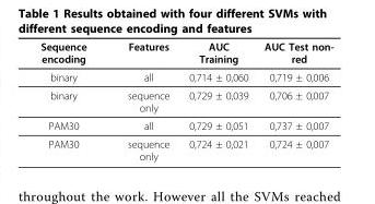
<table><thead><tr><td>Sequence encoding</td><td>Features</td><td>AUC Training</td><td>AUC Test non- red</td></tr></thead><tbody><tr><td>binary</td><td>all</td><td>0,714 ± 0,060</td><td>0,719 ± 0,006</td></tr><tr><td>binary</td><td>sequence only</td><td>0,729 ± 0,039</td><td>0,706 ± 0,007</td></tr><tr><td>PAM30</td><td>all</td><td>0,729 ± 0,051</td><td>0,737 ± 0,007</td></tr><tr><td>PAM30</td><td>sequence only</td><td>0,724 ± 0,021</td><td>0,724 ± 0,007</td></tr></tbody></table>